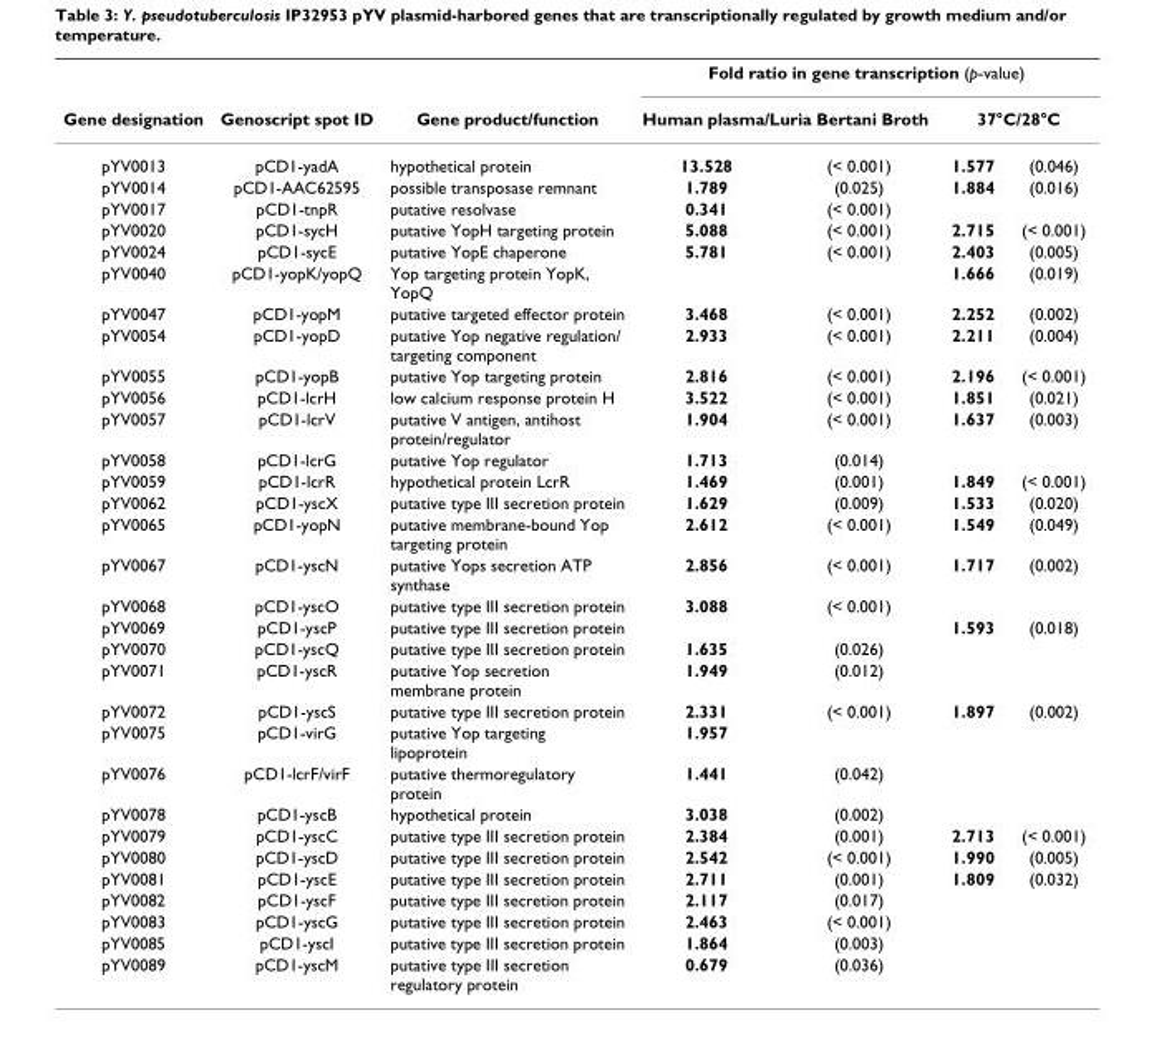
<table><thead><tr><td rowspan="3">Gene designation pYV0013</td><td rowspan="3">Genoscript spot ID pCD1-yadA</td><td rowspan="3">Gene product/function hypothetical protein</td><td colspan="4">Fold ratio in gene transcription (p-value)</td></tr><tr><td colspan="2">Human plasma/Luria Bertani Broth</td><td colspan="2">37°C/28°C</td></tr><tr><td>13.528</td><td>(&lt; 0.001)</td><td>1.577</td><td>(0.046)</td></tr></thead><tbody><tr><td>pYV0014</td><td>pCD1-AAC62595</td><td>possible transposase remnant</td><td>1.789</td><td>(0.025)</td><td>1.884</td><td>(0.016)</td></tr><tr><td>pYV0017</td><td>pCD1-tnpR</td><td>putative resolvase</td><td>0.341</td><td>(&lt; 0.001)</td><td></td><td></td></tr><tr><td>pYV0020</td><td>pCD1-sycH</td><td>putative YopH targeting protein</td><td>5.088</td><td>(&lt; 0.001)</td><td>2.715</td><td>(&lt; 0.001)</td></tr><tr><td>pYV0024</td><td>pCD1-sycE</td><td>putative YopE chaperone</td><td>5.781</td><td>(&lt; 0.001)</td><td>2.403</td><td>(0.005)</td></tr><tr><td>pYV0040</td><td>pCD1-yopK/yopQ</td><td>Yop targeting protein YopK, YopQ</td><td></td><td></td><td>1.666</td><td>(0.019)</td></tr><tr><td>pYV0047</td><td>pCD1-yopM</td><td>putative targeted effector protein</td><td>3.468</td><td>(&lt; 0.001)</td><td>2.252</td><td>(0.002)</td></tr><tr><td>pYV0054</td><td>pCD1-yopD</td><td>putative Yop negative regulation/ targeting component</td><td>2.933</td><td>(&lt; 0.001)</td><td>2.211</td><td>(0.004)</td></tr><tr><td>pYV0055</td><td>pCD1-yopB</td><td>putative Yop targeting protein</td><td>2.816</td><td>(&lt; 0.001)</td><td>2.196</td><td>(&lt; 0.001)</td></tr><tr><td>pYV0056</td><td>pCD1-lcrH</td><td>low calcium response protein H</td><td>3.522</td><td>(&lt; 0.001)</td><td>1.851</td><td>(0.021)</td></tr><tr><td>pYV0057</td><td>pCD1-lcrV</td><td>putative V antigen, antihost protein/regulator</td><td>1.904</td><td>(&lt; 0.001)</td><td>1.637</td><td>(0.003)</td></tr><tr><td>pYV0058</td><td>pCD1-lcrG</td><td>putative Yop regulator</td><td>1.713</td><td>(0.014)</td><td></td><td></td></tr><tr><td>pYV0059</td><td>pCD1-lcrR</td><td>hypothetical protein LcrR</td><td>1.469</td><td>(0.001)</td><td>1.849</td><td>(&lt; 0.001)</td></tr><tr><td>pYV0062</td><td>pCD1-yscX</td><td>putative type III secretion protein</td><td>1.629</td><td>(0.009)</td><td>1.533</td><td>(0.020)</td></tr><tr><td>pYV0065</td><td>pCD1-yopN</td><td>putative membrane-bound Yop targeting protein</td><td>2.612</td><td>(&lt; 0.001)</td><td>1.549</td><td>(0.049)</td></tr><tr><td>pYV0067</td><td>pCD1-yscN</td><td>putative Yops secretion ATP synthase</td><td>2.856</td><td>(&lt; 0.001)</td><td>1.717</td><td>(0.002)</td></tr><tr><td>pYV0068</td><td>pCD1-yscO</td><td>putative type III secretion protein</td><td>3.088</td><td>(&lt; 0.001)</td><td></td><td></td></tr><tr><td>pYV0069</td><td>pCD1-yscP</td><td>putative type III secretion protein</td><td></td><td></td><td>1.593</td><td>(0.018)</td></tr><tr><td>pYV0070</td><td>pCD1-yscQ</td><td>putative type III secretion protein</td><td>1.635</td><td>(0.026)</td><td></td><td></td></tr><tr><td>pYV0071</td><td>pCD1-yscR</td><td>putative Yop secretion membrane protein</td><td>1.949</td><td>(0.012)</td><td></td><td></td></tr><tr><td>pYV0072</td><td>pCD1-yscS</td><td>putative type III secretion protein</td><td>2.331</td><td>(&lt; 0.001)</td><td>1.897</td><td>(0.002)</td></tr><tr><td>pYV0075</td><td>pCD1-virG</td><td>putative Yop targeting lipoprotein</td><td>1.957</td><td></td><td></td><td></td></tr><tr><td>pYV0076</td><td>pCD1-lcrF/virF</td><td>putative thermoregulatory protein</td><td>1.441</td><td>(0.042)</td><td></td><td></td></tr><tr><td>pYV0078</td><td>pCD1-yscB</td><td>hypothetical protein</td><td>3.038</td><td>(0.002)</td><td></td><td></td></tr><tr><td>pYV0079</td><td>pCD1-yscC</td><td>putative type III secretion protein</td><td>2.384</td><td>(0.001)</td><td>2.713</td><td>(&lt; 0.001)</td></tr><tr><td>pYV0080</td><td>pCD1-yscD</td><td>putative type III secretion protein</td><td>2.542</td><td>(&lt; 0.001)</td><td>1.990</td><td>(0.005)</td></tr><tr><td>pYV0081</td><td>pCD1-yscE</td><td>putative type III secretion protein</td><td>2.711</td><td>(0.001)</td><td>1.809</td><td>(0.032)</td></tr><tr><td>pYV0082</td><td>pCD1-yscF</td><td>putative type III secretion protein</td><td>2.117</td><td>(0.017)</td><td></td><td></td></tr><tr><td>pYV0083</td><td>pCD1-yscG</td><td>putative type III secretion protein</td><td>2.463</td><td>(&lt; 0.001)</td><td></td><td></td></tr><tr><td>pYV0085</td><td>pCD1-yscI</td><td>putative type III secretion protein</td><td>1.864</td><td>(0.003)</td><td></td><td></td></tr><tr><td>pYV0089</td><td>pCD1-yscM</td><td>putative type III secretion regulatory protein</td><td>0.679</td><td>(0.036)</td><td></td><td></td></tr></tbody></table>